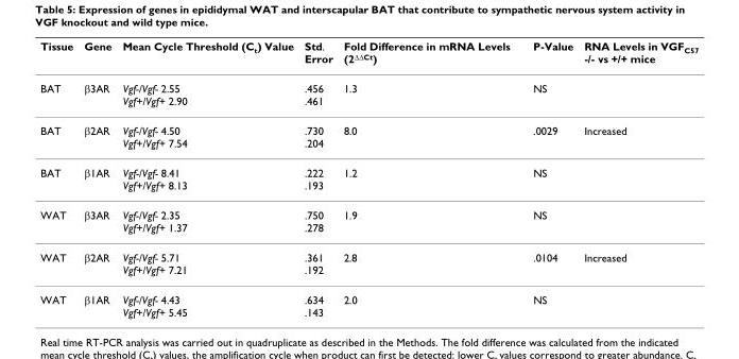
<table><thead><tr><td>Tissue</td><td>Gene</td><td>Mean Cycle Threshold (C<sub>t</sub>) Value</td><td>Std. Error</td><td>Fold Difference in mRNA Levels (2<sup>ΔΔCt</sup>)</td><td>P-Value</td><td>RNA Levels in VGF<sub>C57</sub> -/- vs +/+ mice</td></tr></thead><tbody><tr><td>BAT</td><td>β3AR</td><td>Vgf-/Vgf- 2.55 Vgf+/Vgf+ 2.90</td><td>.456 .461</td><td>1.3</td><td>NS</td><td></td></tr><tr><td>BAT</td><td>β2AR</td><td>Vgf-/Vgf- 4.50 Vgf+/Vgf+ 7.54</td><td>.730 .204</td><td>8.0</td><td>.0029</td><td>Increased</td></tr><tr><td>BAT</td><td>β1AR</td><td>Vgf-/Vgf- 8.41 Vgf+/Vgf+ 8.13</td><td>.222 .193</td><td>1.2</td><td>NS</td><td></td></tr><tr><td>WAT</td><td>β3AR</td><td>Vgf-/Vgf- 2.35 Vgf+/Vgf+ 1.37</td><td>.750 .278</td><td>1.9</td><td>NS</td><td></td></tr><tr><td>WAT</td><td>β2AR</td><td>Vgf-/Vgf- 5.71 Vgf+/Vgf+ 7.21</td><td>.361 .192</td><td>2.8</td><td>.0104</td><td>Increased</td></tr><tr><td>WAT</td><td>β1AR</td><td>Vgf-/Vgf- 4.43 Vgf+/Vgf+ 5.45</td><td>.634 .143</td><td>2.0</td><td>NS</td><td></td></tr></tbody></table>